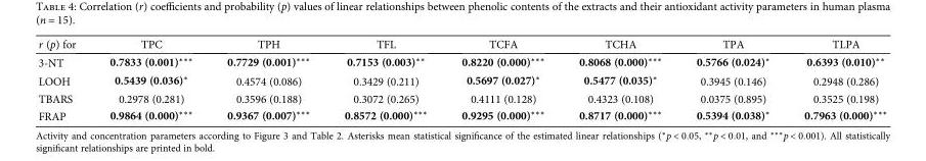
<table><thead><tr><td>r (p) for</td><td>TPC</td><td>TPH</td><td>TFL</td><td>TCFA</td><td>TCHA</td><td>TPA</td><td>TLPA</td></tr></thead><tbody><tr><td>3-NT</td><td>0.7833 (0.001)∗∗∗</td><td>0.7729 (0.001)∗∗∗</td><td>0.7153 (0.003)∗∗</td><td>0.8220 (0.000)∗∗∗</td><td>0.8068 (0.000)∗∗∗</td><td>0.5766 (0.024)∗</td><td>0.6393 (0.010)∗∗</td></tr><tr><td>LOOH</td><td>0.5439 (0.036)∗</td><td>0.4574 (0.086)</td><td>0.3429 (0.211)</td><td>0.5697 (0.027)∗</td><td>0.5477 (0.035)∗</td><td>0.3945 (0.146)</td><td>0.2948 (0.286)</td></tr><tr><td>TBARS</td><td>0.2978 (0.281)</td><td>0.3596 (0.188)</td><td>0.3072 (0.265)</td><td>0.4111 (0.128)</td><td>0.4323 (0.108)</td><td>0.0375 (0.895)</td><td>0.3525 (0.198)</td></tr><tr><td>FRAP</td><td>0.9864 (0.000)∗∗∗</td><td>0.9367 (0.007)∗∗∗</td><td>0.8572 (0.000)∗∗∗</td><td>0.9295 (0.000)∗∗∗</td><td>0.8717 (0.000)∗∗∗</td><td>0.5394 (0.038)∗</td><td>0.7963 (0.000)∗∗∗</td></tr></tbody></table>